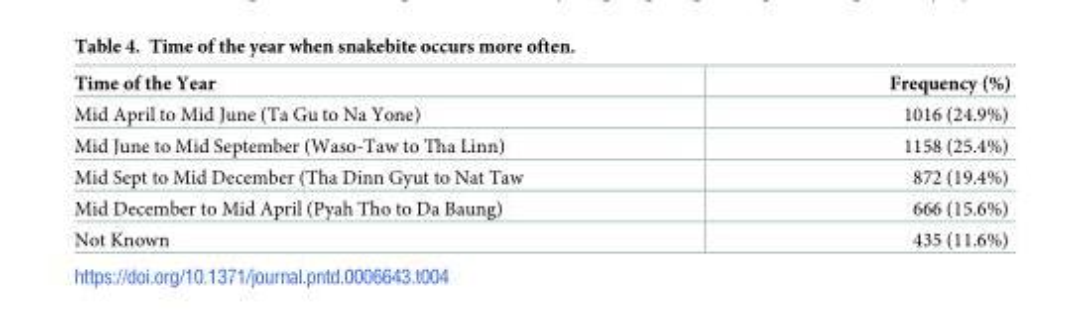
<table><thead><tr><td>Time of the Year</td><td>Frequency (%)</td></tr></thead><tbody><tr><td>Mid April to Mid June (Ta Gu to Na Yone)</td><td>1016 (24.9%)</td></tr><tr><td>Mid June to Mid September (Waso-Taw to Tha Linn)</td><td>1158 (25.4%)</td></tr><tr><td>Mid Sept to Mid December (Tha Dinn Gyut to Nat Taw</td><td>872 (19.4%)</td></tr><tr><td>Mid December to Mid April (Pyah Tho to Da Baung)</td><td>666 (15.6%)</td></tr><tr><td>Not Known</td><td>435 (11.6%)</td></tr></tbody></table>